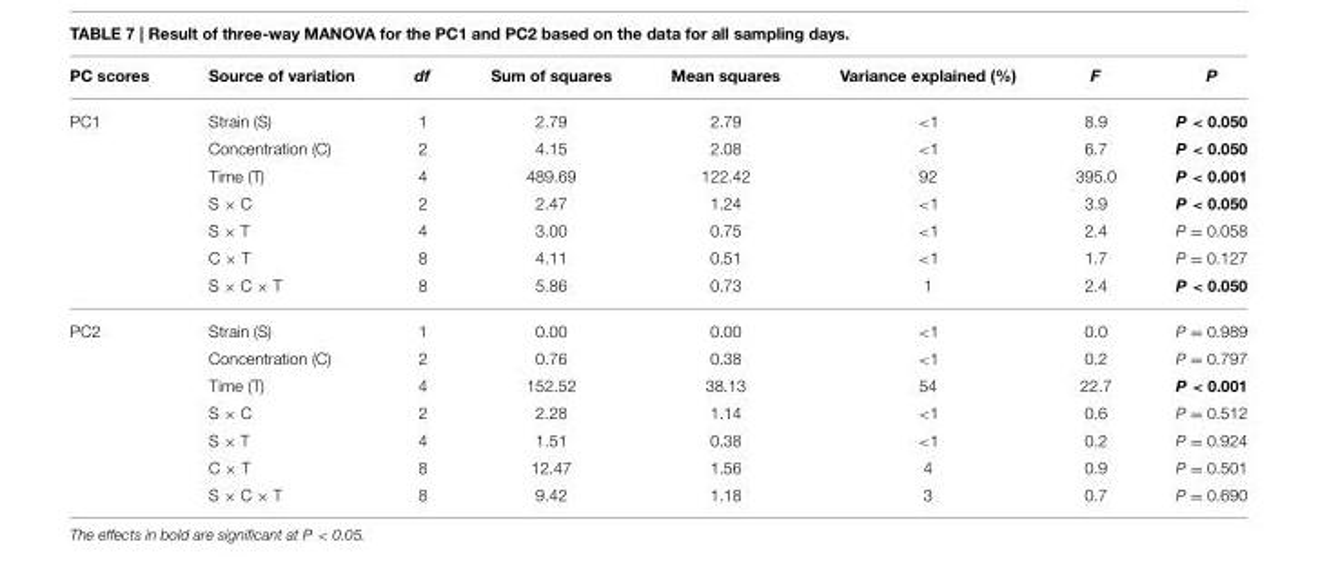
<table><thead><tr><td>PC scores</td><td>Source of variation</td><td>df</td><td>Sum of squares</td><td>Mean squares</td><td>Variance explained (%)</td><td>F</td><td>P</td></tr></thead><tbody><tr><td rowspan="7">PC1</td><td>Strain (S)</td><td>1</td><td>2.79</td><td>2.79</td><td>&lt;1</td><td>8.9</td><td>P &lt; 0.050</td></tr><tr><td>Concentration (C)</td><td>2</td><td>4.15</td><td>2.08</td><td>&lt;1</td><td>6.7</td><td>P &lt; 0.050</td></tr><tr><td>Time (T)</td><td>4</td><td>489.69</td><td>122.42</td><td>92</td><td>395.0</td><td>P &lt; 0.001</td></tr><tr><td>S × C</td><td>2</td><td>2.47</td><td>1.24</td><td>&lt;1</td><td>3.9</td><td>P &lt; 0.050</td></tr><tr><td>S × T</td><td>4</td><td>3.00</td><td>0.75</td><td>&lt;1</td><td>2.4</td><td>P = 0.058</td></tr><tr><td>C × T</td><td>8</td><td>4.11</td><td>0.51</td><td>&lt;1</td><td>1.7</td><td>P = 0.127</td></tr><tr><td>S × C × T</td><td>8</td><td>5.86</td><td>0.73</td><td>1</td><td>2.4</td><td>P &lt; 0.050</td></tr><tr><td rowspan="7">PC2</td><td>Strain (S)</td><td>1</td><td>0.00</td><td>0.00</td><td>&lt;1</td><td>0.0</td><td>P = 0.989</td></tr><tr><td>Concentration (C)</td><td>2</td><td>0.76</td><td>0.38</td><td>&lt;1</td><td>0.2</td><td>P = 0.797</td></tr><tr><td>Time (T)</td><td>4</td><td>152.52</td><td>38.13</td><td>54</td><td>22.7</td><td>P &lt; 0.001</td></tr><tr><td>S × C</td><td>2</td><td>2.28</td><td>1.14</td><td>&lt;1</td><td>0.6</td><td>P = 0.512</td></tr><tr><td>S × T</td><td>4</td><td>1.51</td><td>0.38</td><td>&lt;1</td><td>0.2</td><td>P = 0.924</td></tr><tr><td>C × T</td><td>8</td><td>12.47</td><td>1.56</td><td>4</td><td>0.9</td><td>P = 0.501</td></tr><tr><td>S × C × T</td><td>8</td><td>9.42</td><td>1.18</td><td>3</td><td>0.7</td><td>P = 0.690</td></tr></tbody></table>